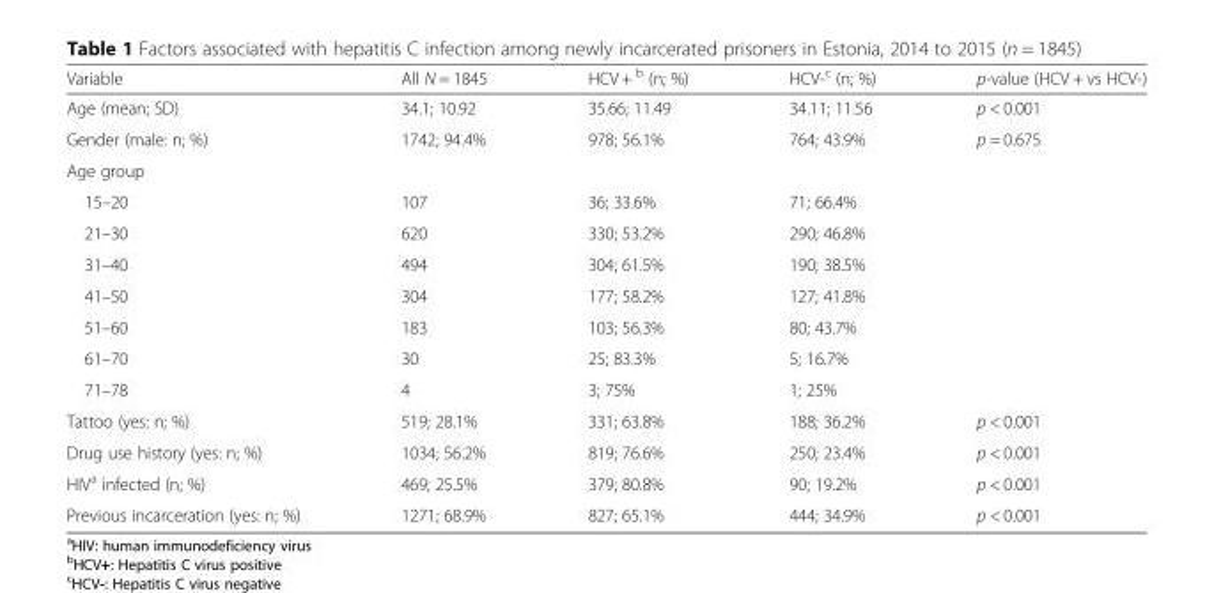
<table><thead><tr><td>Variable</td><td>All N = 1845</td><td>HCV + <sup>b</sup> (n; %)</td><td>HCV-<sup>c</sup> (n; %)</td><td>p-value (HCV + vs HCV-)</td></tr></thead><tbody><tr><td>Age (mean; SD)</td><td>34.1; 10.92</td><td>35.66; 11.49</td><td>34.11; 11.56</td><td>p &lt; 0.001</td></tr><tr><td>Gender (male: n; %)</td><td>1742; 94.4%</td><td>978; 56.1%</td><td>764; 43.9%</td><td>p = 0.675</td></tr><tr><td colspan="5">Age group</td></tr><tr><td>15–20</td><td>107</td><td>36; 33.6%</td><td>71; 66.4%</td><td></td></tr><tr><td>21–30</td><td>620</td><td>330; 53.2%</td><td>290; 46.8%</td><td></td></tr><tr><td>31–40</td><td>494</td><td>304; 61.5%</td><td>190; 38.5%</td><td></td></tr><tr><td>41–50</td><td>304</td><td>177; 58.2%</td><td>127; 41.8%</td><td></td></tr><tr><td>51–60</td><td>183</td><td>103; 56.3%</td><td>80; 43.7%</td><td></td></tr><tr><td>61–70</td><td>30</td><td>25; 83.3%</td><td>5; 16.7%</td><td></td></tr><tr><td>71–78</td><td>4</td><td>3; 75%</td><td>1; 25%</td><td></td></tr><tr><td>Tattoo (yes: n; %)</td><td>519; 28.1%</td><td>331; 63.8%</td><td>188; 36.2%</td><td>p &lt; 0.001</td></tr><tr><td>Drug use history (yes: n; %)</td><td>1034; 56.2%</td><td>819; 76.6%</td><td>250; 23.4%</td><td>p &lt; 0.001</td></tr><tr><td>HIV<sup>a</sup> infected (n; %)</td><td>469; 25.5%</td><td>379; 80.8%</td><td>90; 19.2%</td><td>p &lt; 0.001</td></tr><tr><td>Previous incarceration (yes: n; %)</td><td>1271; 68.9%</td><td>827; 65.1%</td><td>444; 34.9%</td><td>p &lt; 0.001</td></tr></tbody></table>